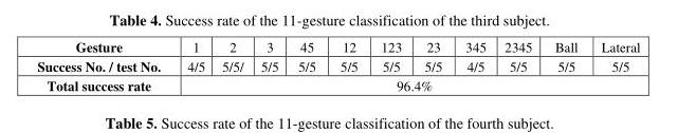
<table><tbody><tr><td>Gesture</td><td>1</td><td>2</td><td>3</td><td>45</td><td>12</td><td>123</td><td>23</td><td>345</td><td>2345</td><td>Ball</td><td>Lateral</td></tr><tr><td>Success No. / test No.</td><td>4/5</td><td>5/5/</td><td>5/5</td><td>5/5</td><td>5/5</td><td>5/5</td><td>5/5</td><td>4/5</td><td>5/5</td><td>5/5</td><td>5/5</td></tr><tr><td>Total success rate</td><td colspan="11">96.4%</td></tr></tbody></table>